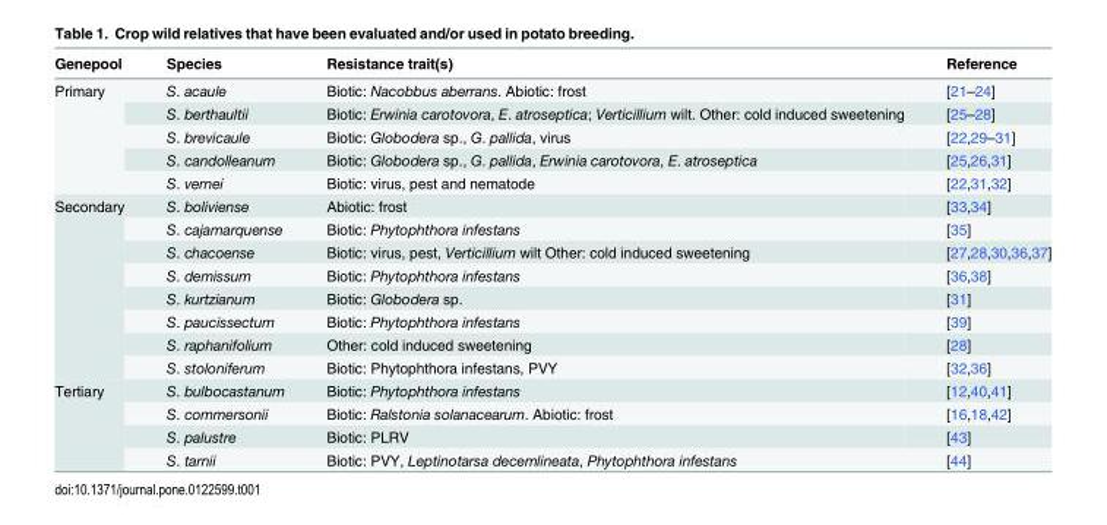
<table><thead><tr><td>Genepool</td><td>Species</td><td>Resistance trait(s)</td><td>Reference</td></tr></thead><tbody><tr><td rowspan="5">Primary</td><td>S. acaule</td><td>Biotic: Nacobbus aberrans. Abiotic: frost</td><td>[21–24]</td></tr><tr><td>S. berthaultii</td><td>Biotic: Erwinia carotovora, E. atroseptica; Verticillium wilt. Other: cold induced sweetening</td><td>[25–28]</td></tr><tr><td>S. brevicaule</td><td>Biotic: Globodera sp., G. pallida, virus</td><td>[22,29–31]</td></tr><tr><td>S. candolleanum</td><td>Biotic: Globodera sp., G. pallida, Erwinia carotovora, E. atroseptica</td><td>[25,26,31]</td></tr><tr><td>S. vernei</td><td>Biotic: virus, pest and nematode</td><td>[22,31,32]</td></tr><tr><td rowspan="8">Secondary</td><td>S. boliviense</td><td>Abiotic: frost</td><td>[33,34]</td></tr><tr><td>S. cajamarquense</td><td>Biotic: Phytophthora infestans</td><td>[35]</td></tr><tr><td>S. chacoense</td><td>Biotic: virus, pest, Verticillium wilt Other: cold induced sweetening</td><td>[27,28,30,36,37]</td></tr><tr><td>S. demissum</td><td>Biotic: Phytophthora infestans</td><td>[36,38]</td></tr><tr><td>S. kurtzianum</td><td>Biotic: Globodera sp.</td><td>[31]</td></tr><tr><td>S. paucissectum</td><td>Biotic: Phytophthora infestans</td><td>[39]</td></tr><tr><td>S. raphanifolium</td><td>Other: cold induced sweetening</td><td>[28]</td></tr><tr><td>S. stoloniferum</td><td>Biotic: Phytophthora infestans, PVY</td><td>[32,36]</td></tr><tr><td rowspan="4">Tertiary</td><td>S. bulbocastanum</td><td>Biotic: Phytophthora infestans</td><td>[12,40,41]</td></tr><tr><td>S. commersonii</td><td>Biotic: Ralstonia solanacearum. Abiotic: frost</td><td>[16,18,42]</td></tr><tr><td>S. palustre</td><td>Biotic: PLRV</td><td>[43]</td></tr><tr><td>S. tarnii</td><td>Biotic: PVY, Leptinotarsa decemlineata, Phytophthora infestans</td><td>[44]</td></tr></tbody></table>